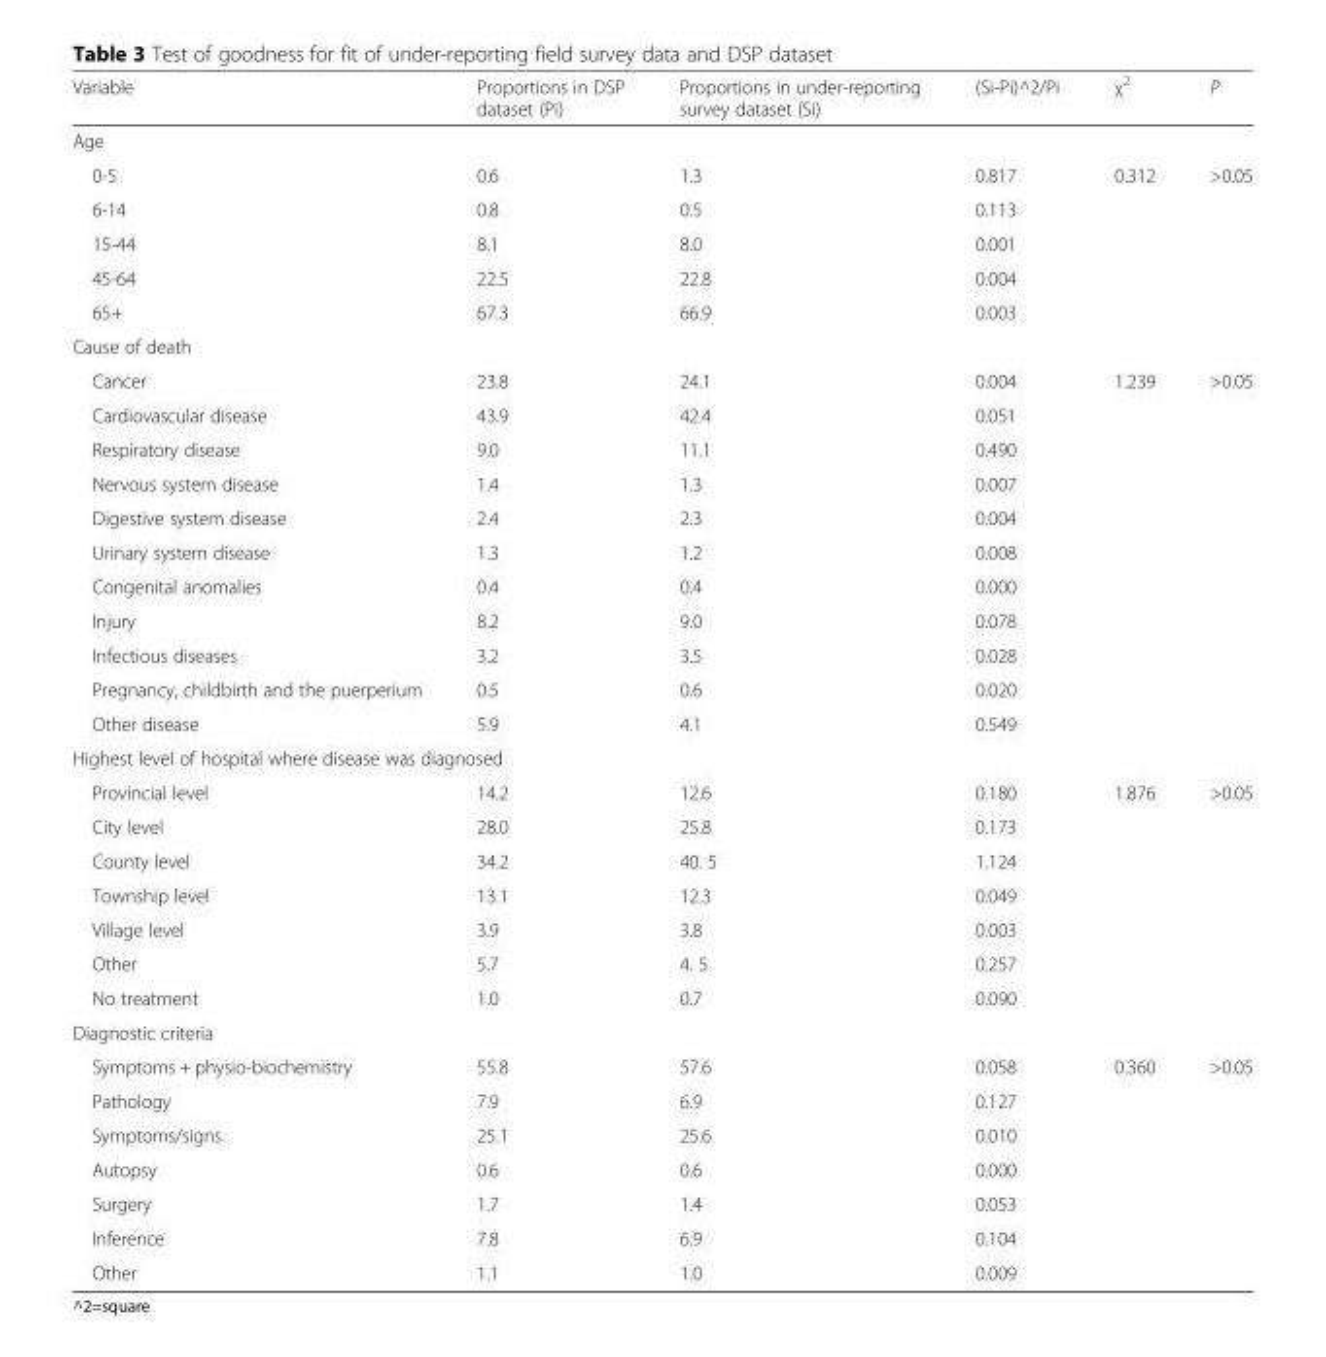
<table><thead><tr><td>Variable</td><td>Proportions in DSP dataset (Pi)</td><td>Proportions in under-reporting survey dataset (Si)</td><td>(Si-Pi)^2/Pi</td><td>χ<sup>2</sup></td><td>P</td></tr></thead><tbody><tr><td colspan="6">Age</td></tr><tr><td>0-5</td><td>0.6</td><td>1.3</td><td>0.817</td><td rowspan="5">0.312</td><td rowspan="5">&gt;0.05</td></tr><tr><td>6-14</td><td>0.8</td><td>0.5</td><td>0.113</td></tr><tr><td>15-44</td><td>8.1</td><td>8.0</td><td>0.001</td></tr><tr><td>45-64</td><td>22.5</td><td>22.8</td><td>0.004</td></tr><tr><td>65+</td><td>67.3</td><td>66.9</td><td>0.003</td></tr><tr><td colspan="6">Cause of death</td></tr><tr><td>Cancer</td><td>23.8</td><td>24.1</td><td>0.004</td><td rowspan="11">1.239</td><td rowspan="11">&gt;0.05</td></tr><tr><td>Cardiovascular disease</td><td>43.9</td><td>42.4</td><td>0.051</td></tr><tr><td>Respiratory disease</td><td>9.0</td><td>11.1</td><td>0.490</td></tr><tr><td>Nervous system disease</td><td>1.4</td><td>1.3</td><td>0.007</td></tr><tr><td>Digestive system disease</td><td>2.4</td><td>2.3</td><td>0.004</td></tr><tr><td>Urinary system disease</td><td>1.3</td><td>1.2</td><td>0.008</td></tr><tr><td>Congenital anomalies</td><td>0.4</td><td>0.4</td><td>0.000</td></tr><tr><td>Injury</td><td>8.2</td><td>9.0</td><td>0.078</td></tr><tr><td>Infectious diseases</td><td>3.2</td><td>3.5</td><td>0.028</td></tr><tr><td>Pregnancy, childbirth and the puerperium</td><td>0.5</td><td>0.6</td><td>0.020</td></tr><tr><td>Other disease</td><td>5.9</td><td>4.1</td><td>0.549</td></tr><tr><td colspan="6">Highest level of hospital where disease was diagnosed</td></tr><tr><td>Provincial level</td><td>14.2</td><td>12.6</td><td>0.180</td><td rowspan="7">1.876</td><td rowspan="7">&gt;0.05</td></tr><tr><td>City level</td><td>28.0</td><td>25.8</td><td>0.173</td></tr><tr><td>County level</td><td>34.2</td><td>40. 5</td><td>1.124</td></tr><tr><td>Township level</td><td>13.1</td><td>12.3</td><td>0.049</td></tr><tr><td>Village level</td><td>3.9</td><td>3.8</td><td>0.003</td></tr><tr><td>Other</td><td>5.7</td><td>4. 5</td><td>0.257</td></tr><tr><td>No treatment</td><td>1.0</td><td>0.7</td><td>0.090</td></tr><tr><td colspan="6">Diagnostic criteria</td></tr><tr><td>Symptoms + physio-biochemistry</td><td>55.8</td><td>57.6</td><td>0.058</td><td rowspan="6">0.360</td><td rowspan="6">&gt;0.05</td></tr><tr><td>Pathology</td><td>7.9</td><td>6.9</td><td>0.127</td></tr><tr><td>Symptoms/signs</td><td>25.1</td><td>25.6</td><td>0.010</td></tr><tr><td>Autopsy</td><td>0.6</td><td>0.6</td><td>0.000</td></tr><tr><td>Surgery</td><td>1.7</td><td>1.4</td><td>0.053</td></tr><tr><td>Inference</td><td>7.8</td><td>6.9</td><td>0.104</td></tr><tr><td>Other</td><td>1.1</td><td>1.0</td><td>0.009</td><td></td><td></td></tr></tbody></table>